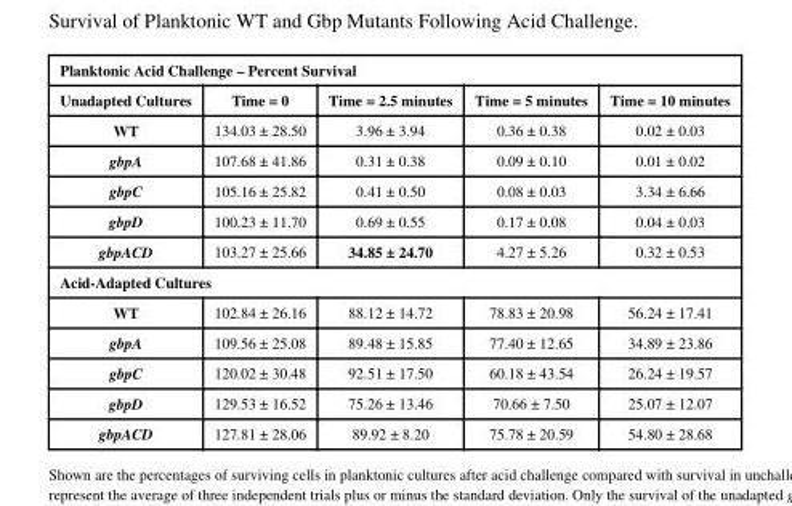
<table><thead><tr><td colspan="5">Planktonic Acid Challenge – Percent Survival</td></tr><tr><td>Unadapted Cultures</td><td>Time = 0</td><td>Time = 2.5 minutes</td><td>Time = 5 minutes</td><td>Time = 10 minutes</td></tr></thead><tbody><tr><td>WT</td><td>134.03 ± 28.50</td><td>3.96 ± 3.94</td><td>0.36 ± 0.38</td><td>0.02 ± 0.03</td></tr><tr><td>gbpA</td><td>107.68 ± 41.86</td><td>0.31 ± 0.38</td><td>0.09 ± 0.10</td><td>0.01 ± 0.02</td></tr><tr><td>gbpC</td><td>105.16 ± 25.82</td><td>0.41 ± 0.50</td><td>0.08 ± 0.03</td><td>3.34 ± 6.66</td></tr><tr><td>gbpD</td><td>100.23 ± 11.70</td><td>0.69 ± 0.55</td><td>0.17 ± 0.08</td><td>0.04 ± 0.03</td></tr><tr><td>gbpACD</td><td>103.27 ± 25.66</td><td>34.85 ± 24.70</td><td>4.27 ± 5.26</td><td>0.32 ± 0.53</td></tr><tr><td colspan="5">Acid-Adapted Cultures</td></tr><tr><td>WT</td><td>102.84 ± 26.16</td><td>88.12 ± 14.72</td><td>78.83 ± 20.98</td><td>56.24 ± 17.41</td></tr><tr><td>gbpA</td><td>109.56 ± 25.08</td><td>89.48 ± 15.85</td><td>77.40 ± 12.65</td><td>34.89 ± 23.86</td></tr><tr><td>gbpC</td><td>120.02 ± 30.48</td><td>92.51 ± 17.50</td><td>60.18 ± 43.54</td><td>26.24 ± 19.57</td></tr><tr><td>gbpD</td><td>129.53 ± 16.52</td><td>75.26 ± 13.46</td><td>70.66 ± 7.50</td><td>25.07 ± 12.07</td></tr><tr><td>gbpACD</td><td>127.81 ± 28.06</td><td>89.92 ± 8.20</td><td>75.78 ± 20.59</td><td>54.80 ± 28.68</td></tr></tbody></table>